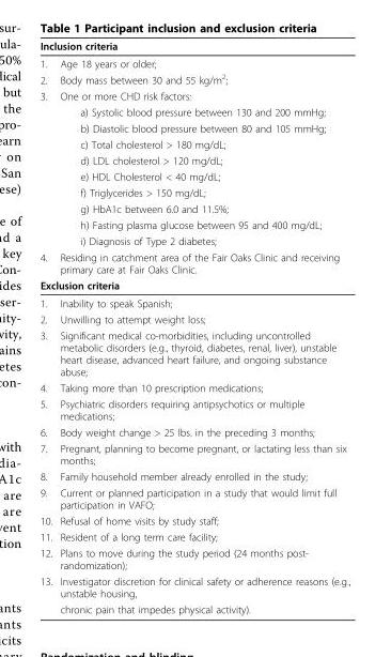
<table><thead><tr><td colspan="2">Inclusion criteria</td></tr><tr><td>1.</td><td>Age 18 years or older;</td></tr></thead><tbody><tr><td>2.</td><td>Body mass between 30 and 55 kg/m<sup>2</sup>;</td></tr><tr><td rowspan="10">3.</td><td>One or more CHD risk factors:</td></tr><tr><td>a) Systolic blood pressure between 130 and 200 mmHg;</td></tr><tr><td>b) Diastolic blood pressure between 80 and 105 mmHg;</td></tr><tr><td>c) Total cholesterol &gt; 180 mg/dL;</td></tr><tr><td>d) LDL cholesterol &gt; 120 mg/dL;</td></tr><tr><td>e) HDL Cholesterol &lt; 40 mg/dL;</td></tr><tr><td>f) Triglycerides &gt; 150 mg/dL;</td></tr><tr><td>g) HbA1c between 6.0 and 11.5%;</td></tr><tr><td>h) Fasting plasma glucose between 95 and 400 mg/dL;</td></tr><tr><td>i) Diagnosis of Type 2 diabetes;</td></tr><tr><td>4.</td><td>Residing in catchment area of the Fair Oaks Clinic and receiving primary care at Fair Oaks Clinic.</td></tr><tr><td colspan="2">Exclusion criteria</td></tr><tr><td>1.</td><td>Inability to speak Spanish;</td></tr><tr><td>2.</td><td>Unwilling to attempt weight loss;</td></tr><tr><td>3.</td><td>Significant medical co-morbidities, including uncontrolled metabolic disorders (e.g., thyroid, diabetes, renal, liver), unstable heart disease, advanced heart failure, and ongoing substance abuse;</td></tr><tr><td>4.</td><td>Taking more than 10 prescription medications;</td></tr><tr><td>5.</td><td>Psychiatric disorders requiring antipsychotics or multiple medications;</td></tr><tr><td>6.</td><td>Body weight change &gt; 25 lbs. in the preceding 3 months;</td></tr><tr><td>7.</td><td>Pregnant, planning to become pregnant, or lactating less than six months;</td></tr><tr><td>8.</td><td>Family household member already enrolled in the study;</td></tr><tr><td>9.</td><td>Current or planned participation in a study that would limit full participation in VAFO;</td></tr><tr><td>10.</td><td>Refusal of home visits by study staff;</td></tr><tr><td>11.</td><td>Resident of a long term care facility;</td></tr><tr><td>12.</td><td>Plans to move during the study period (24 months post- randomization);</td></tr><tr><td rowspan="2">13.</td><td>Investigator discretion for clinical safety or adherence reasons (e.g., unstable housing,</td></tr><tr><td>chronic pain that impedes physical activity).</td></tr></tbody></table>